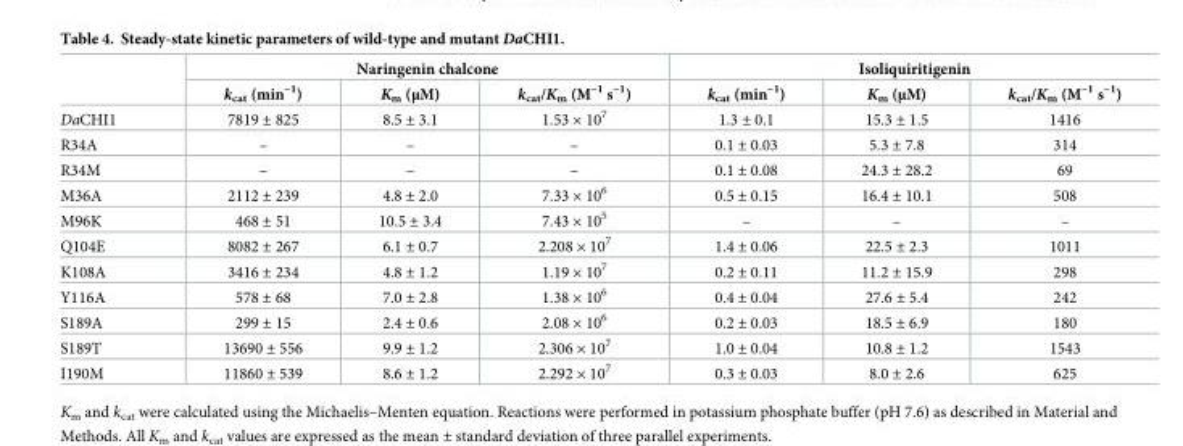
<table><thead><tr><td rowspan="2"></td><td colspan="3">Naringenin chalcone</td><td colspan="3">Isoliquiritigenin</td></tr><tr><td>k<sub>cat</sub> (min<sup>–1</sup>)</td><td>K<sub>m</sub> (μM)</td><td>k<sub>cat</sub>/K<sub>m</sub> (M<sup>–1</sup> s<sup>–1</sup>)</td><td>k<sub>cat</sub> (min<sup>–1</sup>)</td><td>K<sub>m</sub> (μM)</td><td>k<sub>cat</sub>/K<sub>m</sub> (M<sup>–1</sup> s<sup>–1</sup>)</td></tr></thead><tbody><tr><td>DaCHI1</td><td>7819 ± 825</td><td>8.5 ± 3.1</td><td>1.53 × 10<sup>7</sup></td><td>1.3 ± 0.1</td><td>15.3 ± 1.5</td><td>1416</td></tr><tr><td>R34A</td><td>–</td><td>–</td><td>–</td><td>0.1 ± 0.03</td><td>5.3 ± 7.8</td><td>314</td></tr><tr><td>R34M</td><td>–</td><td>–</td><td>–</td><td>0.1 ± 0.08</td><td>24.3 ± 28.2</td><td>69</td></tr><tr><td>M36A</td><td>2112 ± 239</td><td>4.8 ± 2.0</td><td>7.33 × 10<sup>6</sup></td><td>0.5 ± 0.15</td><td>16.4 ± 10.1</td><td>508</td></tr><tr><td>M96K</td><td>468 ± 51</td><td>10.5 ± 3.4</td><td>7.43 × 10<sup>5</sup></td><td>–</td><td>–</td><td>–</td></tr><tr><td>Q104E</td><td>8082 ± 267</td><td>6.1 ± 0.7</td><td>2.208 × 10<sup>7</sup></td><td>1.4 ± 0.06</td><td>22.5 ± 2.3</td><td>1011</td></tr><tr><td>K108A</td><td>3416 ± 234</td><td>4.8 ± 1.2</td><td>1.19 × 10<sup>7</sup></td><td>0.2 ± 0.11</td><td>11.2 ± 15.9</td><td>298</td></tr><tr><td>Y116A</td><td>578 ± 68</td><td>7.0 ± 2.8</td><td>1.38 × 10<sup>6</sup></td><td>0.4 ± 0.04</td><td>27.6 ± 5.4</td><td>242</td></tr><tr><td>S189A</td><td>299 ± 15</td><td>2.4 ± 0.6</td><td>2.08 × 10<sup>6</sup></td><td>0.2 ± 0.03</td><td>18.5 ± 6.9</td><td>180</td></tr><tr><td>S189T</td><td>13690 ± 556</td><td>9.9 ± 1.2</td><td>2.306 × 10<sup>7</sup></td><td>1.0 ± 0.04</td><td>10.8 ± 1.2</td><td>1543</td></tr><tr><td>I190M</td><td>11860 ± 539</td><td>8.6 ± 1.2</td><td>2.292 × 10<sup>7</sup></td><td>0.3 ± 0.03</td><td>8.0 ± 2.6</td><td>625</td></tr></tbody></table>